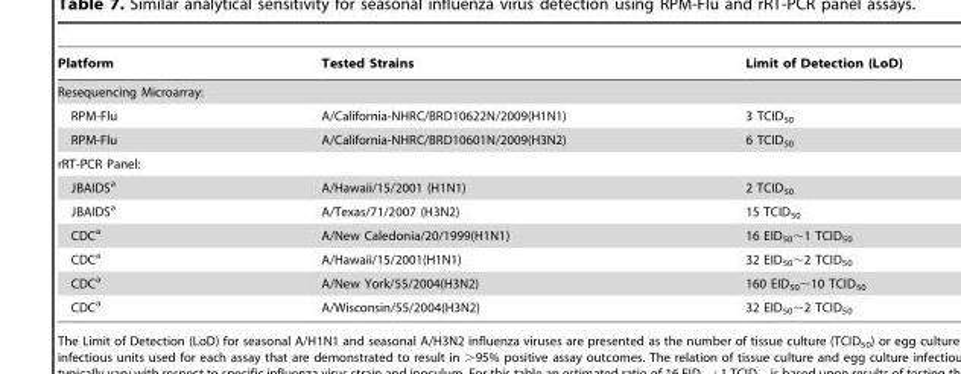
<table><thead><tr><td>Platform</td><td>Tested Strains</td><td>Limit of Detection (LoD)</td></tr></thead><tbody><tr><td colspan="3">Resequencing Microarray:</td></tr><tr><td>RPM-Flu</td><td>A/California-NHRC/BRD10622N/2009(H1N1)</td><td>3 TCID<sub>50</sub></td></tr><tr><td>RPM-Flu</td><td>A/California-NHRC/BRD10601N/2009(H3N2)</td><td>6 TCID<sub>50</sub></td></tr><tr><td colspan="3">rRT-PCR Panel:</td></tr><tr><td>JBAIDS<sup>a</sup></td><td>A/Hawaii/15/2001 (H1N1)</td><td>2 TCID<sub>50</sub></td></tr><tr><td>JBAIDS<sup>a</sup></td><td>A/Texas/71/2007 (H3N2)</td><td>15 TCID<sub>50</sub></td></tr><tr><td>CDC<sup>a</sup></td><td>A/New Caledonia/20/1999(H1N1)</td><td>16 EID<sub>50</sub>∼1 TCID<sub>50</sub></td></tr><tr><td>CDC<sup>a</sup></td><td>A/Hawaii/15/2001(H1N1)</td><td>32 EID<sub>50</sub>∼2 TCID<sub>50</sub></td></tr><tr><td>CDC<sup>a</sup></td><td>A/New York/55/2004(H3N2)</td><td>160 EID<sub>50</sub>∼10 TCID<sub>50</sub></td></tr><tr><td>CDC<sup>a</sup></td><td>A/Wisconsin/55/2004(H3N2)</td><td>32 EID<sub>50</sub>∼2 TCID<sub>50</sub></td></tr></tbody></table>